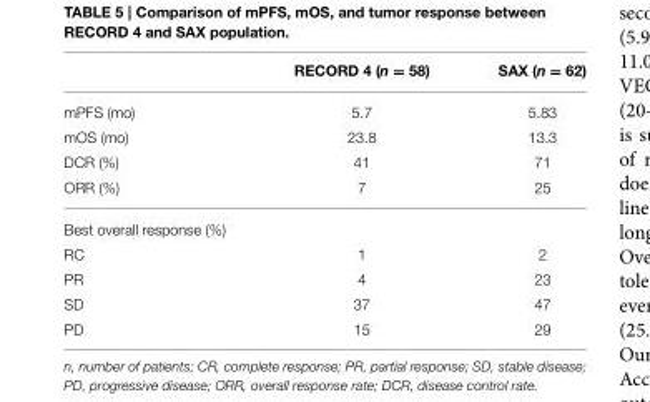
<table><thead><tr><td></td><td>RECORD 4 (n = 58)</td><td>SAX (n = 62)</td></tr></thead><tbody><tr><td>mPFS (mo)</td><td>5.7</td><td>5.83</td></tr><tr><td>mOS (mo)</td><td>23.8</td><td>13.3</td></tr><tr><td>DCR (%)</td><td>41</td><td>71</td></tr><tr><td>ORR (%)</td><td>7</td><td>25</td></tr><tr><td colspan="3">Best overall response (%)</td></tr><tr><td>RC</td><td>1</td><td>2</td></tr><tr><td>PR</td><td>4</td><td>23</td></tr><tr><td>SD</td><td>37</td><td>47</td></tr><tr><td>PD</td><td>15</td><td>29</td></tr></tbody></table>